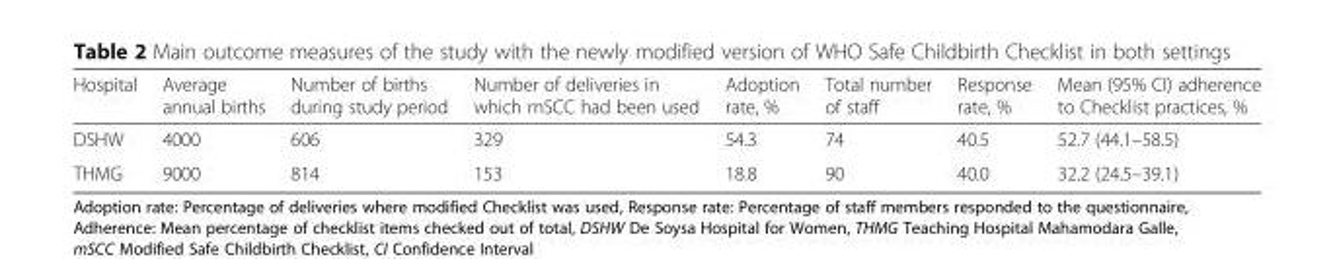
<table><thead><tr><td>Hospital</td><td>Average annual births</td><td>Number of births during study period</td><td>Number of deliveries in which mSCC had been used</td><td>Adoption rate, %</td><td>Total number of staff</td><td>Response rate, %</td><td>Mean (95% CI) adherence to Checklist practices, %</td></tr></thead><tbody><tr><td>DSHW</td><td>4000</td><td>606</td><td>329</td><td>54.3</td><td>74</td><td>40.5</td><td>52.7 (44.1–58.5)</td></tr><tr><td>THMG</td><td>9000</td><td>814</td><td>153</td><td>18.8</td><td>90</td><td>40.0</td><td>32.2 (24.5–39.1)</td></tr></tbody></table>